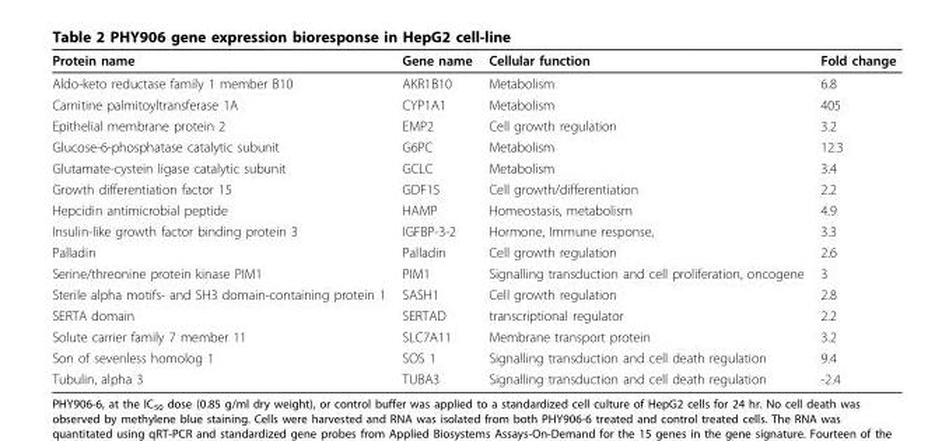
<table><thead><tr><td>Protein name</td><td>Gene name</td><td>Cellular function</td><td>Fold change</td></tr></thead><tbody><tr><td>Aldo-keto reductase family 1 member B10</td><td>AKR1B10</td><td>Metabolism</td><td>6.8</td></tr><tr><td>Carnitine palmitoyltransferase 1A</td><td>CYP1A1</td><td>Metabolism</td><td>405</td></tr><tr><td>Epithelial membrane protein 2</td><td>EMP2</td><td>Cell growth regulation</td><td>3.2</td></tr><tr><td>Glucose-6-phosphatase catalytic subunit</td><td>G6PC</td><td>Metabolism</td><td>12.3</td></tr><tr><td>Glutamate-cystein ligase catalytic subunit</td><td>GCLC</td><td>Metabolism</td><td>3.4</td></tr><tr><td>Growth differentiation factor 15</td><td>GDF15</td><td>Cell growth/differentiation</td><td>2.2</td></tr><tr><td>Hepcidin antimicrobial peptide</td><td>HAMP</td><td>Homeostasis, metabolism</td><td>4.9</td></tr><tr><td>Insulin-like growth factor binding protein 3</td><td>IGFBP-3-2</td><td>Hormone, Immune response,</td><td>3.3</td></tr><tr><td>Palladin</td><td>Palladin</td><td>Cell growth regulation</td><td>2.6</td></tr><tr><td>Serine/threonine protein kinase PIM1</td><td>PIM1</td><td>Signalling transduction and cell proliferation, oncogene</td><td>3</td></tr><tr><td>Sterile alpha motifs- and SH3 domain-containing protein 1</td><td>SASH1</td><td>Cell growth regulation</td><td>2.8</td></tr><tr><td>SERTA domain</td><td>SERTAD</td><td>transcriptional regulator</td><td>2.2</td></tr><tr><td>Solute carrier family 7 member 11</td><td>SLC7A11</td><td>Membrane transport protein</td><td>3.2</td></tr><tr><td>Son of sevenless homolog 1</td><td>SOS 1</td><td>Signalling transduction and cell death regulation</td><td>9.4</td></tr><tr><td>Tubulin, alpha 3</td><td>TUBA3</td><td>Signalling transduction and cell death regulation</td><td>-2.4</td></tr></tbody></table>